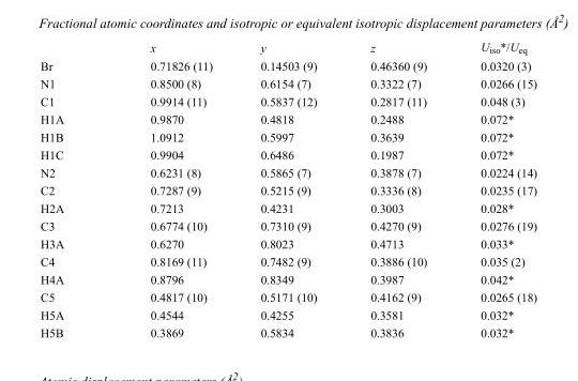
<table><thead><tr><td></td><td>x</td><td>y</td><td>z</td><td>U<sub>iso</sub>*/U<sub>eq</sub></td></tr></thead><tbody><tr><td>Br</td><td>0.71826 (11)</td><td>0.14503 (9)</td><td>0.46360 (9)</td><td>0.0320 (3)</td></tr><tr><td>N1</td><td>0.8500 (8)</td><td>0.6154 (7)</td><td>0.3322 (7)</td><td>0.0266 (15)</td></tr><tr><td>C1</td><td>0.9914 (11)</td><td>0.5837 (12)</td><td>0.2817 (11)</td><td>0.048 (3)</td></tr><tr><td>H1A</td><td>0.9870</td><td>0.4818</td><td>0.2488</td><td>0.072*</td></tr><tr><td>H1B</td><td>1.0912</td><td>0.5997</td><td>0.3639</td><td>0.072*</td></tr><tr><td>H1C</td><td>0.9904</td><td>0.6486</td><td>0.1987</td><td>0.072*</td></tr><tr><td>N2</td><td>0.6231 (8)</td><td>0.5865 (7)</td><td>0.3878 (7)</td><td>0.0224 (14)</td></tr><tr><td>C2</td><td>0.7287 (9)</td><td>0.5215 (9)</td><td>0.3336 (8)</td><td>0.0235 (17)</td></tr><tr><td>H2A</td><td>0.7213</td><td>0.4231</td><td>0.3003</td><td>0.028*</td></tr><tr><td>C3</td><td>0.6774 (10)</td><td>0.7310 (9)</td><td>0.4270 (9)</td><td>0.0276 (19)</td></tr><tr><td>H3A</td><td>0.6270</td><td>0.8023</td><td>0.4713</td><td>0.033*</td></tr><tr><td>C4</td><td>0.8169 (11)</td><td>0.7482 (9)</td><td>0.3886 (10)</td><td>0.035 (2)</td></tr><tr><td>H4A</td><td>0.8796</td><td>0.8349</td><td>0.3987</td><td>0.042*</td></tr><tr><td>C5</td><td>0.4817 (10)</td><td>0.5171 (10)</td><td>0.4162 (9)</td><td>0.0265 (18)</td></tr><tr><td>H5A</td><td>0.4544</td><td>0.4255</td><td>0.3581</td><td>0.032*</td></tr><tr><td>H5B</td><td>0.3869</td><td>0.5834</td><td>0.3836</td><td>0.032*</td></tr></tbody></table>